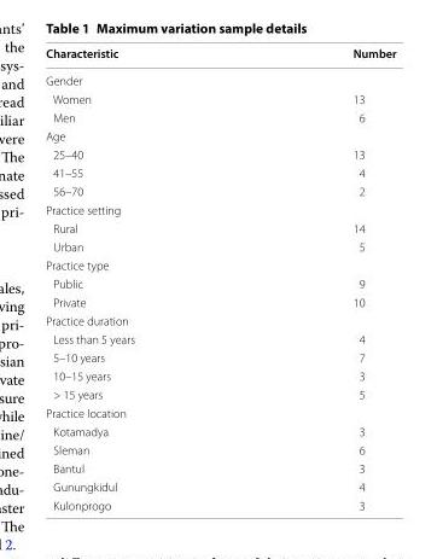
<table><thead><tr><td>Characteristic</td><td>Number</td></tr></thead><tbody><tr><td colspan="2">Gender</td></tr><tr><td>Women</td><td>13</td></tr><tr><td>Men</td><td>6</td></tr><tr><td colspan="2">Age</td></tr><tr><td>25–40</td><td>13</td></tr><tr><td>41–55</td><td>4</td></tr><tr><td>56–70</td><td>2</td></tr><tr><td colspan="2">Practice setting</td></tr><tr><td>Rural</td><td>14</td></tr><tr><td>Urban</td><td>5</td></tr><tr><td colspan="2">Practice type</td></tr><tr><td>Public</td><td>9</td></tr><tr><td>Private</td><td>10</td></tr><tr><td colspan="2">Practice duration</td></tr><tr><td>Less than 5 years</td><td>4</td></tr><tr><td>5–10 years</td><td>7</td></tr><tr><td>10–15 years</td><td>3</td></tr><tr><td>&gt; 15 years</td><td>5</td></tr><tr><td colspan="2">Practice location</td></tr><tr><td>Kotamadya</td><td>3</td></tr><tr><td>Sleman</td><td>6</td></tr><tr><td>Bantul</td><td>3</td></tr><tr><td>Gunungkidul</td><td>4</td></tr><tr><td>Kulonprogo</td><td>3</td></tr></tbody></table>